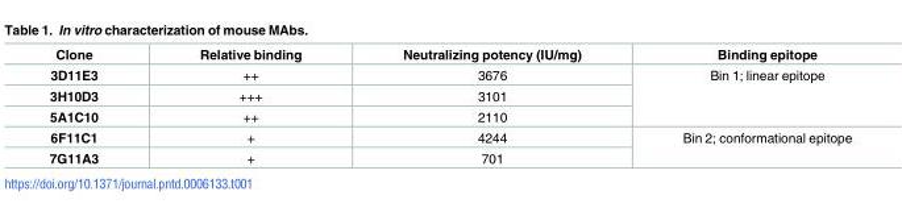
<table><thead><tr><td>Clone</td><td>Relative binding</td><td>Neutralizing potency (IU/mg)</td><td>Binding epitope</td></tr></thead><tbody><tr><td>3D11E3</td><td>++</td><td>3676</td><td rowspan="3">Bin 1; linear epitope</td></tr><tr><td>3H10D3</td><td>+++</td><td>3101</td></tr><tr><td>5A1C10</td><td>++</td><td>2110</td></tr><tr><td>6F11C1</td><td>+</td><td>4244</td><td rowspan="2">Bin 2; conformational epitope</td></tr><tr><td>7G11A3</td><td>+</td><td>701</td></tr></tbody></table>